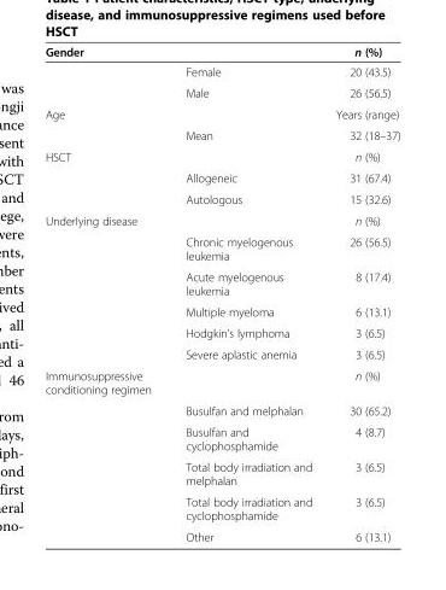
<table><thead><tr><td>Gender</td><td></td><td>n (%)</td></tr></thead><tbody><tr><td></td><td>Female</td><td>20 (43.5)</td></tr><tr><td></td><td>Male</td><td>26 (56.5)</td></tr><tr><td rowspan="2">Age</td><td></td><td>Years (range)</td></tr><tr><td>Mean</td><td>32 (18–37)</td></tr><tr><td rowspan="3">HSCT</td><td></td><td>n (%)</td></tr><tr><td>Allogeneic</td><td>31 (67.4)</td></tr><tr><td>Autologous</td><td>15 (32.6)</td></tr><tr><td rowspan="6">Underlying disease</td><td></td><td>n (%)</td></tr><tr><td>Chronic myelogenous leukemia</td><td>26 (56.5)</td></tr><tr><td>Acute myelogenous leukemia</td><td>8 (17.4)</td></tr><tr><td>Multiple myeloma</td><td>6 (13.1)</td></tr><tr><td>Hodgkin’s lymphoma</td><td>3 (6.5)</td></tr><tr><td>Severe aplastic anemia</td><td>3 (6.5)</td></tr><tr><td rowspan="6">Immunosuppressive conditioning regimen</td><td></td><td>n (%)</td></tr><tr><td>Busulfan and melphalan</td><td>30 (65.2)</td></tr><tr><td>Busulfan and cyclophosphamide</td><td>4 (8.7)</td></tr><tr><td>Total body irradiation and melphalan</td><td>3 (6.5)</td></tr><tr><td>Total body irradiation and cyclophosphamide</td><td>3 (6.5)</td></tr><tr><td>Other</td><td>6 (13.1)</td></tr></tbody></table>